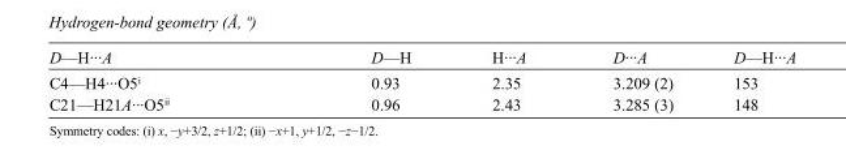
<table><tbody><tr><td>D—H···A</td><td>D—H</td><td>H···A</td><td>D···A</td><td>D—H···A</td></tr><tr><td>C4—H4···O5<sup>i</sup></td><td>0.93</td><td>2.35</td><td>3.209 (2)</td><td>153</td></tr><tr><td>C21—H21A···O5<sup>ii</sup></td><td>0.96</td><td>2.43</td><td>3.285 (3)</td><td>148</td></tr></tbody></table>